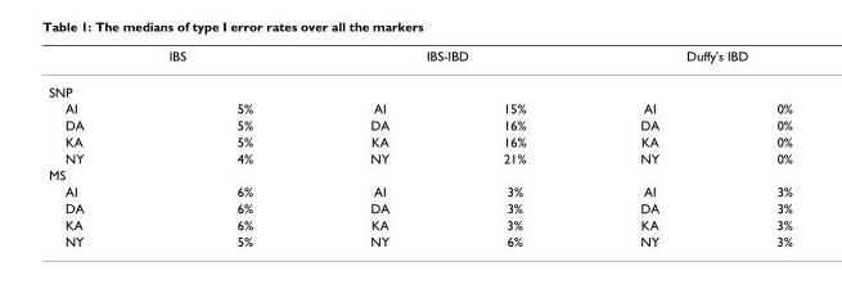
<table><thead><tr><td colspan="2">IBS</td><td colspan="2">IBS-IBD</td><td colspan="2">Duffy&#x27;s IBD</td></tr><tr><td>SNP</td><td></td><td></td><td></td><td></td><td></td></tr></thead><tbody><tr><td>AI</td><td>5%</td><td>AI</td><td>15%</td><td>AI</td><td>0%</td></tr><tr><td>DA</td><td>5%</td><td>DA</td><td>16%</td><td>DA</td><td>0%</td></tr><tr><td>KA</td><td>5%</td><td>KA</td><td>16%</td><td>KA</td><td>0%</td></tr><tr><td>NY</td><td>4%</td><td>NY</td><td>21%</td><td>NY</td><td>0%</td></tr><tr><td colspan="6">MS</td></tr><tr><td>AI</td><td>6%</td><td>AI</td><td>3%</td><td>AI</td><td>3%</td></tr><tr><td>DA</td><td>6%</td><td>DA</td><td>3%</td><td>DA</td><td>3%</td></tr><tr><td>KA</td><td>6%</td><td>KA</td><td>3%</td><td>KA</td><td>3%</td></tr><tr><td>NY</td><td>5%</td><td>NY</td><td>6%</td><td>NY</td><td>3%</td></tr></tbody></table>